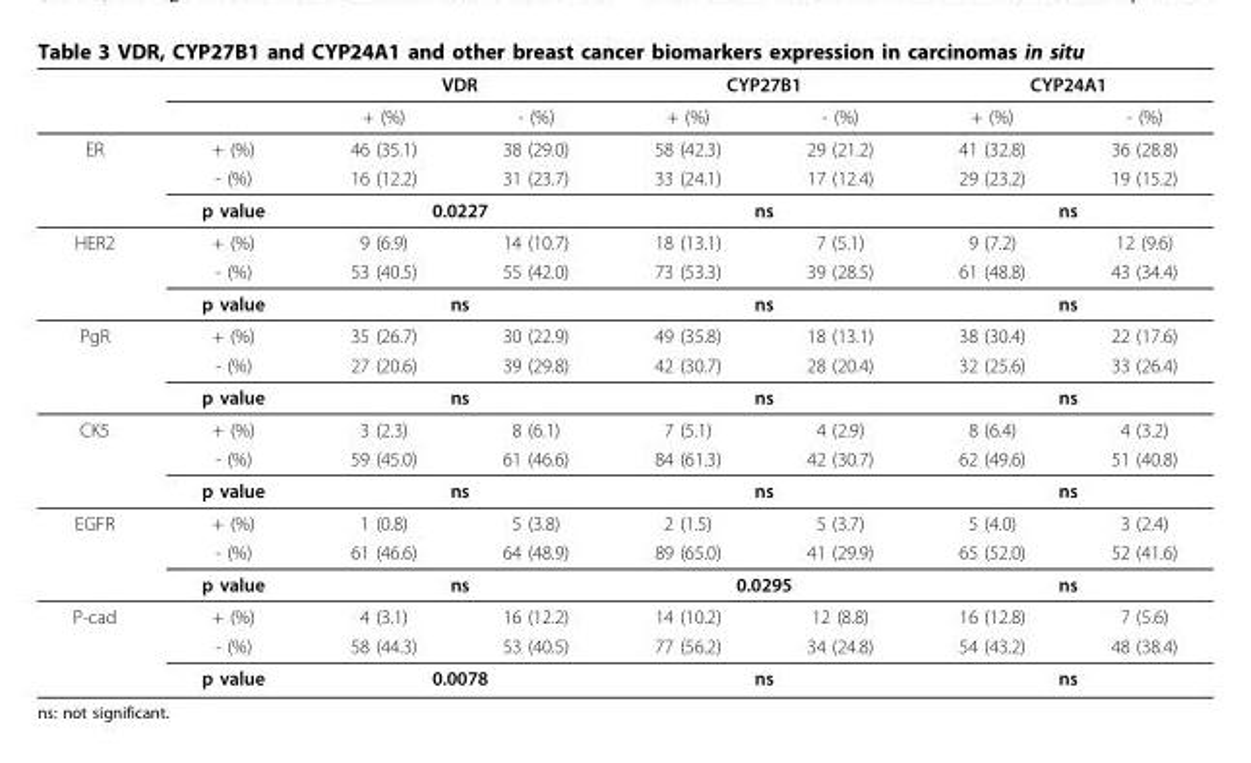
<table><thead><tr><td rowspan="2"></td><td rowspan="2"></td><td colspan="2">VDR</td><td colspan="2">CYP27B1</td><td colspan="2">CYP24A1</td></tr><tr><td>+ (%)</td><td>- (%)</td><td>+ (%)</td><td>- (%)</td><td>+ (%)</td><td>- (%)</td></tr></thead><tbody><tr><td rowspan="3">ER</td><td>+ (%)</td><td>46 (35.1)</td><td>38 (29.0)</td><td>58 (42.3)</td><td>29 (21.2)</td><td>41 (32.8)</td><td>36 (28.8)</td></tr><tr><td>- (%)</td><td>16 (12.2)</td><td>31 (23.7)</td><td>33 (24.1)</td><td>17 (12.4)</td><td>29 (23.2)</td><td>19 (15.2)</td></tr><tr><td>p value</td><td colspan="2">0.0227</td><td colspan="2">ns</td><td colspan="2">ns</td></tr><tr><td rowspan="3">HER2</td><td>+ (%)</td><td>9 (6.9)</td><td>14 (10.7)</td><td>18 (13.1)</td><td>7 (5.1)</td><td>9 (7.2)</td><td>12 (9.6)</td></tr><tr><td>- (%)</td><td>53 (40.5)</td><td>55 (42.0)</td><td>73 (53.3)</td><td>39 (28.5)</td><td>61 (48.8)</td><td>43 (34.4)</td></tr><tr><td>p value</td><td colspan="2">ns</td><td colspan="2">ns</td><td colspan="2">ns</td></tr><tr><td rowspan="3">PgR</td><td>+ (%)</td><td>35 (26.7)</td><td>30 (22.9)</td><td>49 (35.8)</td><td>18 (13.1)</td><td>38 (30.4)</td><td>22 (17.6)</td></tr><tr><td>- (%)</td><td>27 (20.6)</td><td>39 (29.8)</td><td>42 (30.7)</td><td>28 (20.4)</td><td>32 (25.6)</td><td>33 (26.4)</td></tr><tr><td>p value</td><td colspan="2">ns</td><td colspan="2">ns</td><td colspan="2">ns</td></tr><tr><td rowspan="3">CK5</td><td>+ (%)</td><td>3 (2.3)</td><td>8 (6.1)</td><td>7 (5.1)</td><td>4 (2.9)</td><td>8 (6.4)</td><td>4 (3.2)</td></tr><tr><td>- (%)</td><td>59 (45.0)</td><td>61 (46.6)</td><td>84 (61.3)</td><td>42 (30.7)</td><td>62 (49.6)</td><td>51 (40.8)</td></tr><tr><td>p value</td><td colspan="2">ns</td><td colspan="2">ns</td><td colspan="2">ns</td></tr><tr><td rowspan="3">EGFR</td><td>+ (%)</td><td>1 (0.8)</td><td>5 (3.8)</td><td>2 (1.5)</td><td>5 (3.7)</td><td>5 (4.0)</td><td>3 (2.4)</td></tr><tr><td>- (%)</td><td>61 (46.6)</td><td>64 (48.9)</td><td>89 (65.0)</td><td>41 (29.9)</td><td>65 (52.0)</td><td>52 (41.6)</td></tr><tr><td>p value</td><td colspan="2">ns</td><td colspan="2">0.0295</td><td colspan="2">ns</td></tr><tr><td rowspan="3">P-cad</td><td>+ (%)</td><td>4 (3.1)</td><td>16 (12.2)</td><td>14 (10.2)</td><td>12 (8.8)</td><td>16 (12.8)</td><td>7 (5.6)</td></tr><tr><td>- (%)</td><td>58 (44.3)</td><td>53 (40.5)</td><td>77 (56.2)</td><td>34 (24.8)</td><td>54 (43.2)</td><td>48 (38.4)</td></tr><tr><td>p value</td><td colspan="2">0.0078</td><td colspan="2">ns</td><td colspan="2">ns</td></tr></tbody></table>